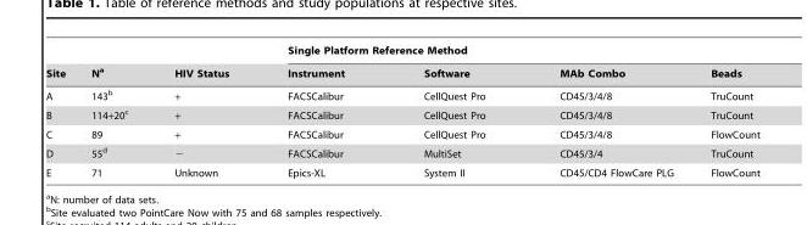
<table><thead><tr><td rowspan="2">Site</td><td rowspan="2">N<sup>a</sup></td><td rowspan="2">HIV Status</td><td colspan="4">Single Platform Reference Method</td></tr><tr><td>Instrument</td><td>Software</td><td>MAb Combo</td><td>Beads</td></tr></thead><tbody><tr><td>A</td><td>143<sup>b</sup></td><td>+</td><td>FACSCalibur</td><td>CellQuest Pro</td><td>CD45/3/4/8</td><td>TruCount</td></tr><tr><td>B</td><td>114+20<sup>c</sup></td><td>+</td><td>FACSCalibur</td><td>CellQuest Pro</td><td>CD45/3/4/8</td><td>TruCount</td></tr><tr><td>C</td><td>89</td><td>+</td><td>FACSCalibur</td><td>CellQuest Pro</td><td>CD45/3/4/8</td><td>FlowCount</td></tr><tr><td>D</td><td>55<sup>d</sup></td><td>−</td><td>FACSCalibur</td><td>MultiSet</td><td>CD45/3/4</td><td>TruCount</td></tr><tr><td>E</td><td>71</td><td>Unknown</td><td>Epics-XL</td><td>System II</td><td>CD45/CD4 FlowCare PLG</td><td>FlowCount</td></tr></tbody></table>